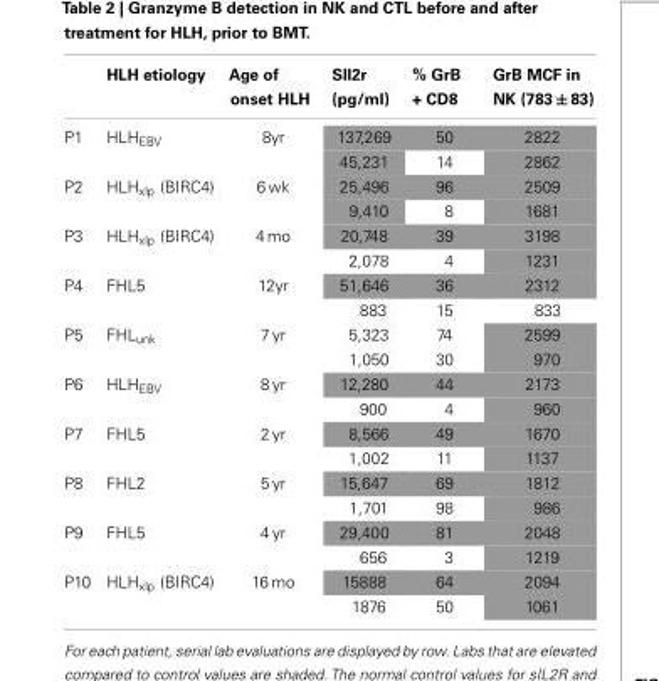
<table><thead><tr><td></td><td>HLH etiology</td><td>Age of onset HLH</td><td>SIl2r (pg/ml)</td><td>% GrB + CD8</td><td>GrB MCF in NK (783 ± 83)</td></tr></thead><tbody><tr><td rowspan="2">P1</td><td>HLH<sub>EBV</sub></td><td>8yr</td><td>137,269</td><td>50</td><td>2822</td></tr><tr><td></td><td></td><td>45,231</td><td>14</td><td>2862</td></tr><tr><td rowspan="2">P2</td><td>HLH<sub>xlp</sub> (BIRC4)</td><td>6 wk</td><td>25,496</td><td>96</td><td>2509</td></tr><tr><td></td><td></td><td>9,410</td><td>8</td><td>1681</td></tr><tr><td rowspan="2">P3</td><td>HLH<sub>xlp</sub> (BIRC4)</td><td>4 mo</td><td>20,748</td><td>39</td><td>3198</td></tr><tr><td></td><td></td><td>2,078</td><td>4</td><td>1231</td></tr><tr><td rowspan="2">P4</td><td>FHL5</td><td>12yr</td><td>51,646</td><td>36</td><td>2312</td></tr><tr><td></td><td></td><td>883</td><td>15</td><td>833</td></tr><tr><td rowspan="2">P5</td><td>FHL<sub>unk</sub></td><td>7 yr</td><td>5,323</td><td>74</td><td>2599</td></tr><tr><td></td><td></td><td>1,050</td><td>30</td><td>970</td></tr><tr><td rowspan="2">P6</td><td>HLH<sub>EBV</sub></td><td>8 yr</td><td>12,280</td><td>44</td><td>2173</td></tr><tr><td></td><td></td><td>900</td><td>4</td><td>960</td></tr><tr><td rowspan="2">P7</td><td>FHL5</td><td>2 yr</td><td>8,566</td><td>49</td><td>1670</td></tr><tr><td></td><td></td><td>1,002</td><td>11</td><td>1137</td></tr><tr><td rowspan="2">P8</td><td>FHL2</td><td>5 yr</td><td>15,647</td><td>69</td><td>1812</td></tr><tr><td></td><td></td><td>1,701</td><td>98</td><td>986</td></tr><tr><td rowspan="2">P9</td><td>FHL5</td><td>4 yr</td><td>29,400</td><td>81</td><td>2048</td></tr><tr><td></td><td></td><td>656</td><td>3</td><td>1219</td></tr><tr><td rowspan="2">P10</td><td>HLH<sub>xlp</sub> (BIRC4)</td><td>16 mo</td><td>15888</td><td>64</td><td>2094</td></tr><tr><td></td><td></td><td>1876</td><td>50</td><td>1061</td></tr></tbody></table>